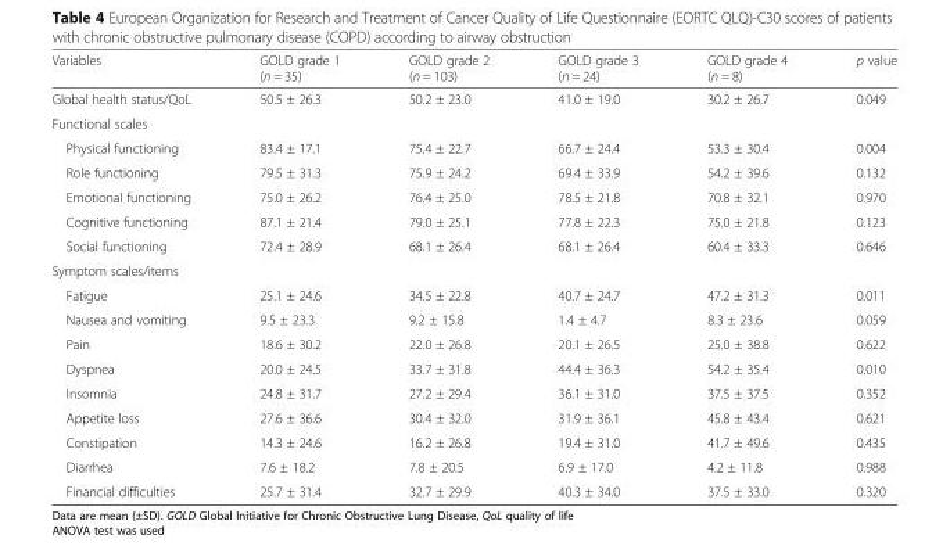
<table><thead><tr><td>Variables</td><td>GOLD grade 1 (n = 35)</td><td>GOLD grade 2 (n = 103)</td><td>GOLD grade 3 (n = 24)</td><td>GOLD grade 4 (n = 8)</td><td>p value</td></tr></thead><tbody><tr><td>Global health status/QoL</td><td>50.5 ± 26.3</td><td>50.2 ± 23.0</td><td>41.0 ± 19.0</td><td>30.2 ± 26.7</td><td>0.049</td></tr><tr><td colspan="6">Functional scales</td></tr><tr><td>Physical functioning</td><td>83.4 ± 17.1</td><td>75.4 ± 22.7</td><td>66.7 ± 24.4</td><td>53.3 ± 30.4</td><td>0.004</td></tr><tr><td>Role functioning</td><td>79.5 ± 31.3</td><td>75.9 ± 24.2</td><td>69.4 ± 33.9</td><td>54.2 ± 39.6</td><td>0.132</td></tr><tr><td>Emotional functioning</td><td>75.0 ± 26.2</td><td>76.4 ± 25.0</td><td>78.5 ± 21.8</td><td>70.8 ± 32.1</td><td>0.970</td></tr><tr><td>Cognitive functioning</td><td>87.1 ± 21.4</td><td>79.0 ± 25.1</td><td>77.8 ± 22.3</td><td>75.0 ± 21.8</td><td>0.123</td></tr><tr><td>Social functioning</td><td>72.4 ± 28.9</td><td>68.1 ± 26.4</td><td>68.1 ± 26.4</td><td>60.4 ± 33.3</td><td>0.646</td></tr><tr><td colspan="6">Symptom scales/items</td></tr><tr><td>Fatigue</td><td>25.1 ± 24.6</td><td>34.5 ± 22.8</td><td>40.7 ± 24.7</td><td>47.2 ± 31.3</td><td>0.011</td></tr><tr><td>Nausea and vomiting</td><td>9.5 ± 23.3</td><td>9.2 ± 15.8</td><td>1.4 ± 4.7</td><td>8.3 ± 23.6</td><td>0.059</td></tr><tr><td>Pain</td><td>18.6 ± 30.2</td><td>22.0 ± 26.8</td><td>20.1 ± 26.5</td><td>25.0 ± 38.8</td><td>0.622</td></tr><tr><td>Dyspnea</td><td>20.0 ± 24.5</td><td>33.7 ± 31.8</td><td>44.4 ± 36.3</td><td>54.2 ± 35.4</td><td>0.010</td></tr><tr><td>Insomnia</td><td>24.8 ± 31.7</td><td>27.2 ± 29.4</td><td>36.1 ± 31.0</td><td>37.5 ± 37.5</td><td>0.352</td></tr><tr><td>Appetite loss</td><td>27.6 ± 36.6</td><td>30.4 ± 32.0</td><td>31.9 ± 36.1</td><td>45.8 ± 43.4</td><td>0.621</td></tr><tr><td>Constipation</td><td>14.3 ± 24.6</td><td>16.2 ± 26.8</td><td>19.4 ± 31.0</td><td>41.7 ± 49.6</td><td>0.435</td></tr><tr><td>Diarrhea</td><td>7.6 ± 18.2</td><td>7.8 ± 20.5</td><td>6.9 ± 17.0</td><td>4.2 ± 11.8</td><td>0.988</td></tr><tr><td>Financial difficulties</td><td>25.7 ± 31.4</td><td>32.7 ± 29.9</td><td>40.3 ± 34.0</td><td>37.5 ± 33.0</td><td>0.320</td></tr></tbody></table>